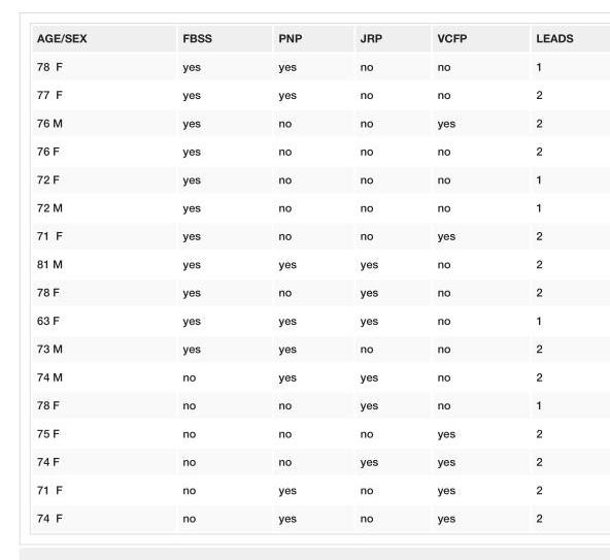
<table><tbody><tr><td>AGE/SEX</td><td>FBSS</td><td>PNP</td><td>JRP</td><td>VCFP</td><td>LEADS</td></tr><tr><td>78 F</td><td>yes</td><td>yes</td><td>no</td><td>no</td><td>1</td></tr><tr><td>77 F</td><td>yes</td><td>yes</td><td>no</td><td>no</td><td>2</td></tr><tr><td>76 M</td><td>yes</td><td>no</td><td>no</td><td>yes</td><td>2</td></tr><tr><td>76 F</td><td>yes</td><td>no</td><td>no</td><td>no</td><td>2</td></tr><tr><td>72 F</td><td>yes</td><td>no</td><td>no</td><td>no</td><td>1</td></tr><tr><td>72 M</td><td>yes</td><td>no</td><td>no</td><td>no</td><td>1</td></tr><tr><td>71 F</td><td>yes</td><td>no</td><td>no</td><td>yes</td><td>2</td></tr><tr><td>81 M</td><td>yes</td><td>yes</td><td>yes</td><td>no</td><td>2</td></tr><tr><td>78 F</td><td>yes</td><td>no</td><td>yes</td><td>no</td><td>2</td></tr><tr><td>63 F</td><td>yes</td><td>yes</td><td>yes</td><td>no</td><td>1</td></tr><tr><td>73 M</td><td>yes</td><td>yes</td><td>no</td><td>no</td><td>2</td></tr><tr><td>74 M</td><td>no</td><td>yes</td><td>yes</td><td>no</td><td>2</td></tr><tr><td>78 F</td><td>no</td><td>no</td><td>yes</td><td>no</td><td>1</td></tr><tr><td>75 F</td><td>no</td><td>no</td><td>no</td><td>yes</td><td>2</td></tr><tr><td>74 F</td><td>no</td><td>no</td><td>yes</td><td>yes</td><td>2</td></tr><tr><td>71 F</td><td>no</td><td>yes</td><td>no</td><td>yes</td><td>2</td></tr><tr><td>74 F</td><td>no</td><td>yes</td><td>no</td><td>yes</td><td>2</td></tr></tbody></table>